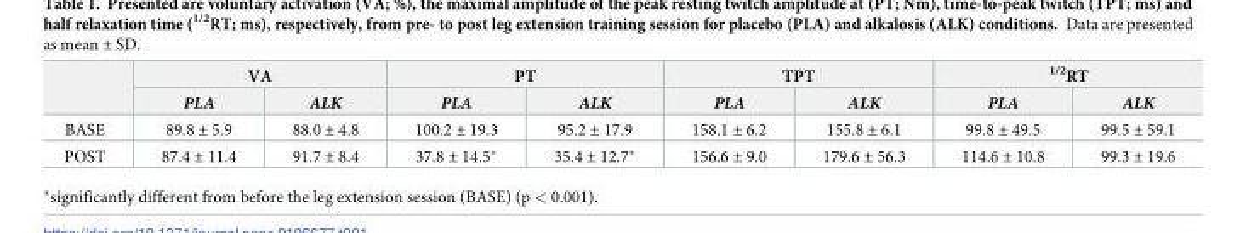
<table><thead><tr><td rowspan="2"></td><td colspan="2">VA</td><td colspan="2">PT</td><td colspan="2">TPT</td><td colspan="2"><sup>1/2</sup>RT</td></tr><tr><td>PLA</td><td>ALK</td><td>PLA</td><td>ALK</td><td>PLA</td><td>ALK</td><td>PLA</td><td>ALK</td></tr></thead><tbody><tr><td>BASE</td><td>89.8 ± 5.9</td><td>88.0 ± 4.8</td><td>100.2 ± 19.3</td><td>95.2 ± 17.9</td><td>158.1 ± 6.2</td><td>155.8 ± 6.1</td><td>99.8 ± 49.5</td><td>99.5 ± 59.1</td></tr><tr><td>POST</td><td>87.4 ± 11.4</td><td>91.7 ± 8.4</td><td>37.8 ± 14.5*</td><td>35.4 ± 12.7*</td><td>156.6 ± 9.0</td><td>179.6 ± 56.3</td><td>114.6 ± 10.8</td><td>99.3 ± 19.6</td></tr></tbody></table>